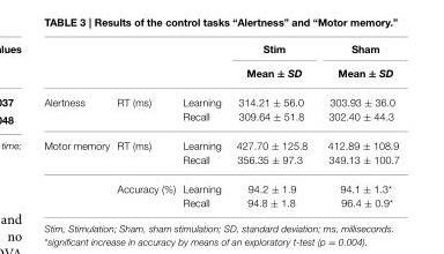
<table><thead><tr><td rowspan="2"></td><td rowspan="2"></td><td rowspan="2"></td><td rowspan="2">Stim Mean ± SD</td><td rowspan="2">Sham Mean ± SD</td></tr><tr></tr></thead><tbody><tr><td>Alertness</td><td>RT (ms)</td><td>Learning Recall</td><td>314.21 ± 56.0 309.64 ± 51.8</td><td>303.93 ± 36.0 302.40 ± 44.3</td></tr><tr><td rowspan="2">Motor memory</td><td>RT (ms)</td><td>Learning Recall</td><td>427.70 ± 125.8 356.35 ± 97.3</td><td>412.89 ± 108.9 349.13 ± 100.7</td></tr><tr><td>Accuracy (%)</td><td>Learning Recall</td><td>94.2 ± 1.9 94.8 ± 1.8</td><td>94.1 ± 1.3* 96.4 ± 0.9*</td></tr></tbody></table>